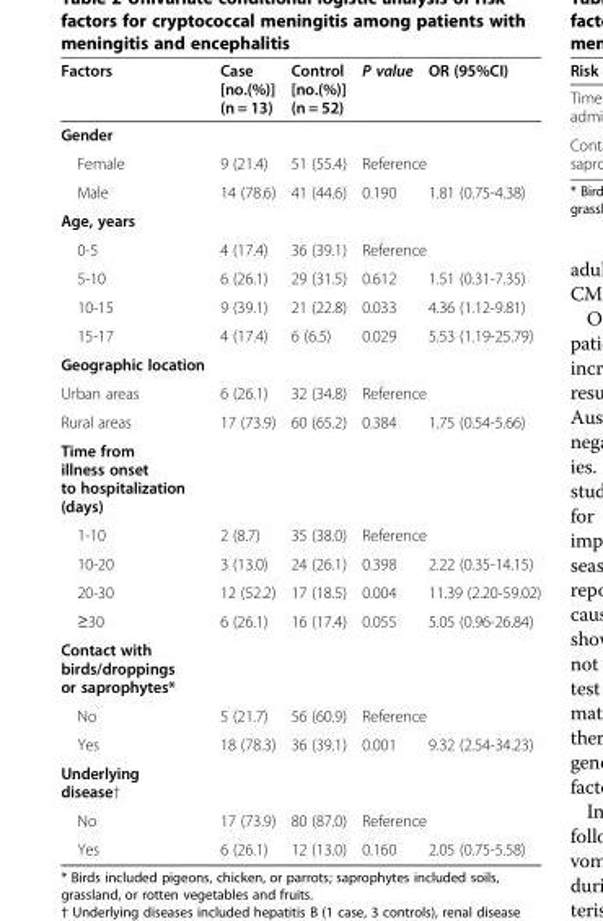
<table><thead><tr><td>Factors</td><td>Case [no.(%)] (n = 13)</td><td>Control [no.(%)] (n = 52)</td><td>P value</td><td>OR (95%CI)</td></tr></thead><tbody><tr><td colspan="5">Gender</td></tr><tr><td>Female</td><td>9 (21.4)</td><td>51 (55.4)</td><td colspan="2">Reference</td></tr><tr><td>Male</td><td>14 (78.6)</td><td>41 (44.6)</td><td>0.190</td><td>1.81 (0.75-4.38)</td></tr><tr><td colspan="5">Age, years</td></tr><tr><td>0-5</td><td>4 (17.4)</td><td>36 (39.1)</td><td colspan="2">Reference</td></tr><tr><td>5-10</td><td>6 (26.1)</td><td>29 (31.5)</td><td>0.612</td><td>1.51 (0.31-7.35)</td></tr><tr><td>10-15</td><td>9 (39.1)</td><td>21 (22.8)</td><td>0.033</td><td>4.36 (1.12-9.81)</td></tr><tr><td>15-17</td><td>4 (17.4)</td><td>6 (6.5)</td><td>0.029</td><td>5.53 (1.19-25.79)</td></tr><tr><td colspan="5">Geographic location</td></tr><tr><td>Urban areas</td><td>6 (26.1)</td><td>32 (34.8)</td><td colspan="2">Reference</td></tr><tr><td>Rural areas</td><td>17 (73.9)</td><td>60 (65.2)</td><td>0.384</td><td>1.75 (0.54-5.66)</td></tr><tr><td colspan="5">Time from illness onset to hospitalization (days)</td></tr><tr><td>1-10</td><td>2 (8.7)</td><td>35 (38.0)</td><td colspan="2">Reference</td></tr><tr><td>10-20</td><td>3 (13.0)</td><td>24 (26.1)</td><td>0.398</td><td>2.22 (0.35-14.15)</td></tr><tr><td>20-30</td><td>12 (52.2)</td><td>17 (18.5)</td><td>0.004</td><td>11.39 (2.20-59.02)</td></tr><tr><td>≥30</td><td>6 (26.1)</td><td>16 (17.4)</td><td>0.055</td><td>5.05 (0.96-26.84)</td></tr><tr><td colspan="5">Contact with birds/droppings or saprophytes*</td></tr><tr><td>No</td><td>5 (21.7)</td><td>56 (60.9)</td><td colspan="2">Reference</td></tr><tr><td>Yes</td><td>18 (78.3)</td><td>36 (39.1)</td><td>0.001</td><td>9.32 (2.54-34.23)</td></tr><tr><td colspan="5">Underlying disease†</td></tr><tr><td>No</td><td>17 (73.9)</td><td>80 (87.0)</td><td colspan="2">Reference</td></tr><tr><td>Yes</td><td>6 (26.1)</td><td>12 (13.0)</td><td>0.160</td><td>2.05 (0.75-5.58)</td></tr></tbody></table>